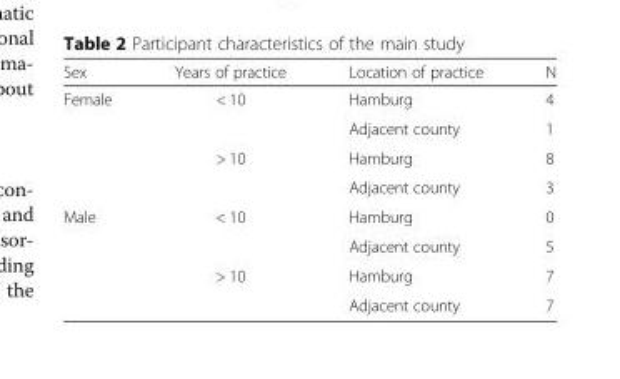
<table><thead><tr><td>Sex</td><td>Years of practice</td><td>Location of practice</td><td>N</td></tr></thead><tbody><tr><td rowspan="4">Female</td><td rowspan="2">&lt; 10</td><td>Hamburg</td><td>4</td></tr><tr><td>Adjacent county</td><td>1</td></tr><tr><td rowspan="2">&gt; 10</td><td>Hamburg</td><td>8</td></tr><tr><td>Adjacent county</td><td>3</td></tr><tr><td rowspan="4">Male</td><td rowspan="2">&lt; 10</td><td>Hamburg</td><td>0</td></tr><tr><td>Adjacent county</td><td>5</td></tr><tr><td rowspan="2">&gt; 10</td><td>Hamburg</td><td>7</td></tr><tr><td>Adjacent county</td><td>7</td></tr></tbody></table>